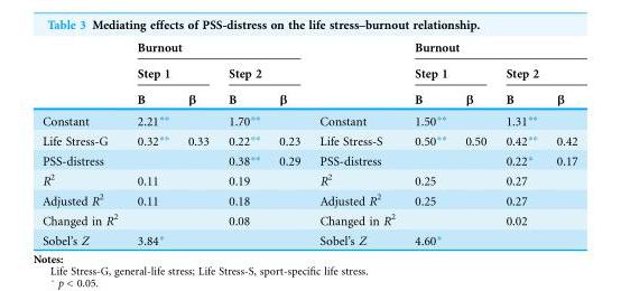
<table><thead><tr><td rowspan="3"></td><td colspan="4">Burnout</td><td rowspan="3"></td><td colspan="4">Burnout</td></tr><tr><td colspan="2">Step 1</td><td colspan="2">Step 2</td><td colspan="2">Step 1</td><td colspan="2">Step 2</td></tr><tr><td>B</td><td>β</td><td>B</td><td>β</td><td>B</td><td>β</td><td>B</td><td>β</td></tr></thead><tbody><tr><td>Constant</td><td>2.21**</td><td></td><td>1.70**</td><td></td><td>Constant</td><td>1.50**</td><td></td><td>1.31**</td><td></td></tr><tr><td>Life Stress-G</td><td>0.32**</td><td>0.33</td><td>0.22**</td><td>0.23</td><td>Life Stress-S</td><td>0.50**</td><td>0.50</td><td>0.42**</td><td>0.42</td></tr><tr><td>PSS-distress</td><td></td><td></td><td>0.38**</td><td>0.29</td><td>PSS-distress</td><td></td><td></td><td>0.22*</td><td>0.17</td></tr><tr><td>R<sup>2</sup></td><td>0.11</td><td></td><td>0.19</td><td></td><td>R<sup>2</sup></td><td>0.25</td><td></td><td>0.27</td><td></td></tr><tr><td>Adjusted R<sup>2</sup></td><td>0.11</td><td></td><td>0.18</td><td></td><td>Adjusted R<sup>2</sup></td><td>0.25</td><td></td><td>0.27</td><td></td></tr><tr><td>Changed in R<sup>2</sup></td><td></td><td></td><td>0.08</td><td></td><td>Changed in R<sup>2</sup></td><td></td><td></td><td>0.02</td><td></td></tr><tr><td>Sobel’s Z</td><td colspan="4">3.84*</td><td>Sobel’s Z</td><td colspan="4">4.60*</td></tr></tbody></table>